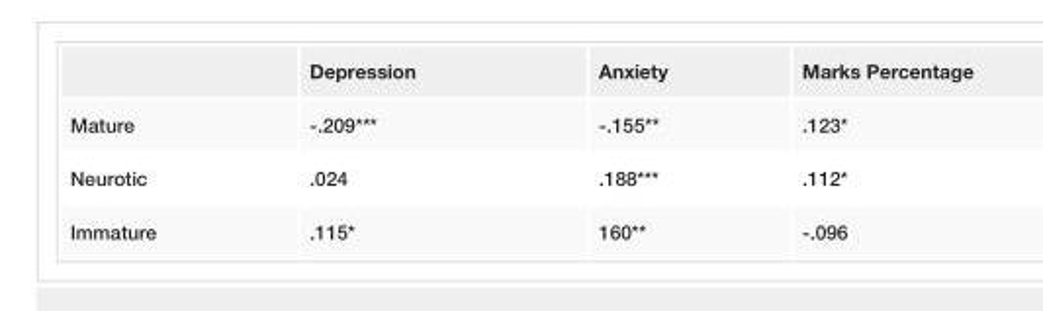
<table><thead><tr><td></td><td>Depression</td><td>Anxiety</td><td>Marks Percentage</td></tr></thead><tbody><tr><td>Mature</td><td>-.209***</td><td>-.155**</td><td>.123*</td></tr><tr><td>Neurotic</td><td>.024</td><td>.188***</td><td>.112*</td></tr><tr><td>Immature</td><td>.115*</td><td>160**</td><td>-.096</td></tr></tbody></table>